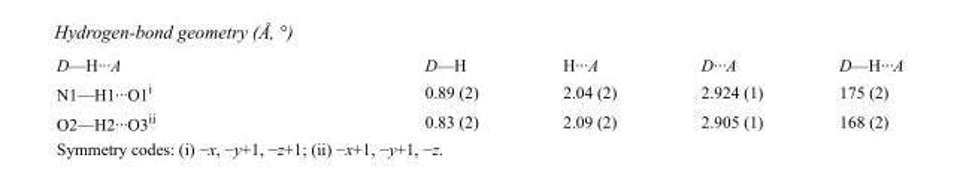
<table><tbody><tr><td>D—H···A</td><td>D—H</td><td>H···A</td><td>D···A</td><td>D—H···A</td></tr><tr><td>N1—H1···O1<sup>i</sup></td><td>0.89 (2)</td><td>2.04 (2)</td><td>2.924 (1)</td><td>175 (2)</td></tr><tr><td>O2—H2···O3<sup>ii</sup></td><td>0.83 (2)</td><td>2.09 (2)</td><td>2.905 (1)</td><td>168 (2)</td></tr></tbody></table>